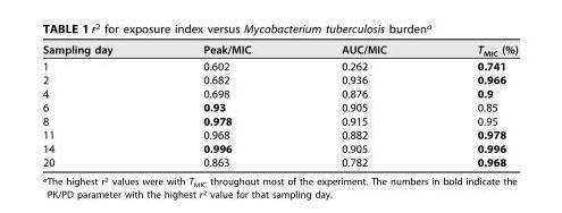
<table><thead><tr><td>Sampling day</td><td>Peak/MIC</td><td>AUC/MIC</td><td>T<sub>MIC</sub> (%)</td></tr></thead><tbody><tr><td>1</td><td>0.602</td><td>0.262</td><td>0.741</td></tr><tr><td>2</td><td>0.682</td><td>0.936</td><td>0.966</td></tr><tr><td>4</td><td>0.698</td><td>0.876</td><td>0.9</td></tr><tr><td>6</td><td>0.93</td><td>0.905</td><td>0.85</td></tr><tr><td>8</td><td>0.978</td><td>0.915</td><td>0.95</td></tr><tr><td>11</td><td>0.968</td><td>0.882</td><td>0.978</td></tr><tr><td>14</td><td>0.996</td><td>0.905</td><td>0.996</td></tr><tr><td>20</td><td>0.863</td><td>0.782</td><td>0.968</td></tr></tbody></table>